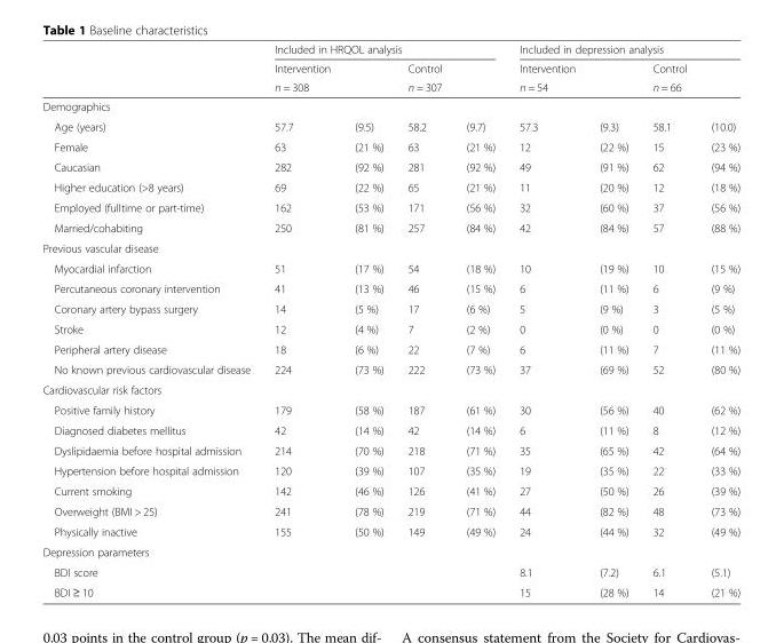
<table><thead><tr><td rowspan="3"></td><td colspan="4">Included in HRQOL analysis</td><td colspan="4">Included in depression analysis</td></tr><tr><td>Intervention</td><td></td><td>Control</td><td></td><td>Intervention</td><td></td><td>Control</td><td></td></tr><tr><td colspan="2">n = 308</td><td colspan="2">n = 307</td><td colspan="2">n = 54</td><td colspan="2">n = 66</td></tr></thead><tbody><tr><td colspan="9">Demographics</td></tr><tr><td>Age (years)</td><td>57.7</td><td>(9.5)</td><td>58.2</td><td>(9.7)</td><td>57.3</td><td>(9.3)</td><td>58.1</td><td>(10.0)</td></tr><tr><td>Female</td><td>63</td><td>(21 %)</td><td>63</td><td>(21 %)</td><td>12</td><td>(22 %)</td><td>15</td><td>(23 %)</td></tr><tr><td>Caucasian</td><td>282</td><td>(92 %)</td><td>281</td><td>(92 %)</td><td>49</td><td>(91 %)</td><td>62</td><td>(94 %)</td></tr><tr><td>Higher education (&gt;8 years)</td><td>69</td><td>(22 %)</td><td>65</td><td>(21 %)</td><td>11</td><td>(20 %)</td><td>12</td><td>(18 %)</td></tr><tr><td>Employed (fulltime or part-time)</td><td>162</td><td>(53 %)</td><td>171</td><td>(56 %)</td><td>32</td><td>(60 %)</td><td>37</td><td>(56 %)</td></tr><tr><td>Married/cohabiting</td><td>250</td><td>(81 %)</td><td>257</td><td>(84 %)</td><td>42</td><td>(84 %)</td><td>57</td><td>(88 %)</td></tr><tr><td colspan="9">Previous vascular disease</td></tr><tr><td>Myocardial infarction</td><td>51</td><td>(17 %)</td><td>54</td><td>(18 %)</td><td>10</td><td>(19 %)</td><td>10</td><td>(15 %)</td></tr><tr><td>Percutaneous coronary intervention</td><td>41</td><td>(13 %)</td><td>46</td><td>(15 %)</td><td>6</td><td>(11 %)</td><td>6</td><td>(9 %)</td></tr><tr><td>Coronary artery bypass surgery</td><td>14</td><td>(5 %)</td><td>17</td><td>(6 %)</td><td>5</td><td>(9 %)</td><td>3</td><td>(5 %)</td></tr><tr><td>Stroke</td><td>12</td><td>(4 %)</td><td>7</td><td>(2 %)</td><td>0</td><td>(0 %)</td><td>0</td><td>(0 %)</td></tr><tr><td>Peripheral artery disease</td><td>18</td><td>(6 %)</td><td>22</td><td>(7 %)</td><td>6</td><td>(11 %)</td><td>7</td><td>(11 %)</td></tr><tr><td>No known previous cardiovascular disease</td><td>224</td><td>(73 %)</td><td>222</td><td>(73 %)</td><td>37</td><td>(69 %)</td><td>52</td><td>(80 %)</td></tr><tr><td colspan="9">Cardiovascular risk factors</td></tr><tr><td>Positive family history</td><td>179</td><td>(58 %)</td><td>187</td><td>(61 %)</td><td>30</td><td>(56 %)</td><td>40</td><td>(62 %)</td></tr><tr><td>Diagnosed diabetes mellitus</td><td>42</td><td>(14 %)</td><td>42</td><td>(14 %)</td><td>6</td><td>(11 %)</td><td>8</td><td>(12 %)</td></tr><tr><td>Dyslipidaemia before hospital admission</td><td>214</td><td>(70 %)</td><td>218</td><td>(71 %)</td><td>35</td><td>(65 %)</td><td>42</td><td>(64 %)</td></tr><tr><td>Hypertension before hospital admission</td><td>120</td><td>(39 %)</td><td>107</td><td>(35 %)</td><td>19</td><td>(35 %)</td><td>22</td><td>(33 %)</td></tr><tr><td>Current smoking</td><td>142</td><td>(46 %)</td><td>126</td><td>(41 %)</td><td>27</td><td>(50 %)</td><td>26</td><td>(39 %)</td></tr><tr><td>Overweight (BMI &gt; 25)</td><td>241</td><td>(78 %)</td><td>219</td><td>(71 %)</td><td>44</td><td>(82 %)</td><td>48</td><td>(73 %)</td></tr><tr><td>Physically inactive</td><td>155</td><td>(50 %)</td><td>149</td><td>(49 %)</td><td>24</td><td>(44 %)</td><td>32</td><td>(49 %)</td></tr><tr><td colspan="9">Depression parameters</td></tr><tr><td>BDI score</td><td></td><td></td><td></td><td></td><td>8.1</td><td>(7.2)</td><td>6.1</td><td>(5.1)</td></tr><tr><td>BDI ≥ 10</td><td></td><td></td><td></td><td></td><td>15</td><td>(28 %)</td><td>14</td><td>(21 %)</td></tr></tbody></table>